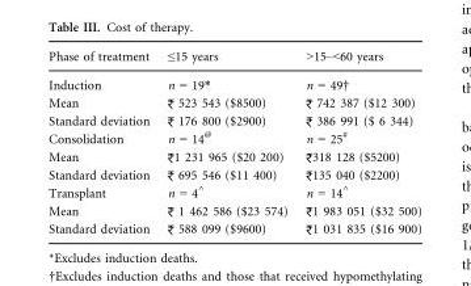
<table><thead><tr><td>Phase of treatment</td><td>≤15 years</td><td>&gt;15–&lt;60 years</td></tr></thead><tbody><tr><td>Induction</td><td>n = 19*</td><td>n = 49†</td></tr><tr><td>Mean</td><td>523 543 ($8500)</td><td>742 387 ($12 300)</td></tr><tr><td>Standard deviation</td><td>176 800 ($2900)</td><td>386 991 ($ 6 344)</td></tr><tr><td>Consolidation</td><td>n = 14<sup>@</sup></td><td>n = 25<sup>#</sup></td></tr><tr><td>Mean</td><td>1 231 965 ($20 200)</td><td>318 128 ($5200)</td></tr><tr><td>Standard deviation</td><td>695 546 ($11 400)</td><td>135 040 ($2200)</td></tr><tr><td>Transplant</td><td>n = 4<sup>^</sup></td><td>n = 14<sup>^</sup></td></tr><tr><td>Mean</td><td>1 462 586 ($23 574)</td><td>1 983 051 ($32 500)</td></tr><tr><td>Standard deviation</td><td>588 099 ($9600)</td><td>1 031 835 ($16 900)</td></tr></tbody></table>